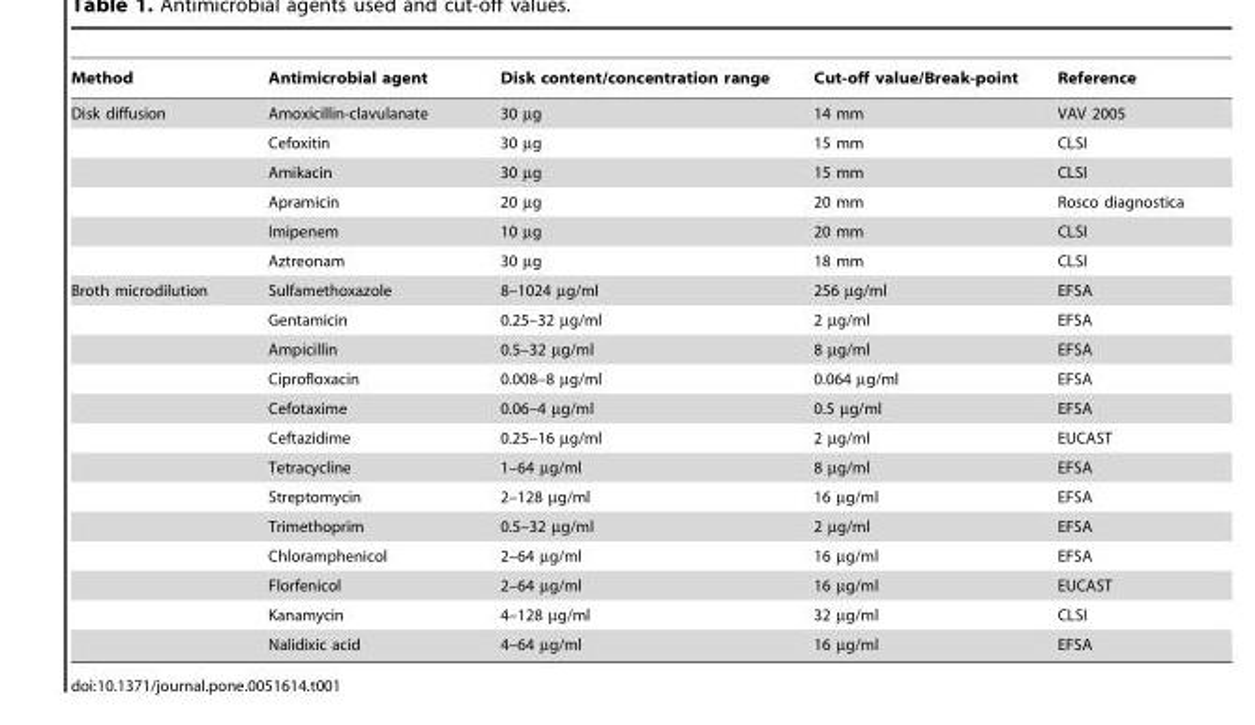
<table><thead><tr><td>Method</td><td>Antimicrobial agent</td><td>Disk content/concentration range</td><td>Cut-off value/Break-point</td><td>Reference</td></tr></thead><tbody><tr><td rowspan="6">Disk diffusion</td><td>Amoxicillin-clavulanate</td><td>30 µg</td><td>14 mm</td><td>VAV 2005</td></tr><tr><td>Cefoxitin</td><td>30 µg</td><td>15 mm</td><td>CLSI</td></tr><tr><td>Amikacin</td><td>30 µg</td><td>15 mm</td><td>CLSI</td></tr><tr><td>Apramicin</td><td>20 µg</td><td>20 mm</td><td>Rosco diagnostica</td></tr><tr><td>Imipenem</td><td>10 µg</td><td>20 mm</td><td>CLSI</td></tr><tr><td>Aztreonam</td><td>30 µg</td><td>18 mm</td><td>CLSI</td></tr><tr><td rowspan="13">Broth microdilution</td><td>Sulfamethoxazole</td><td>8–1024 µg/ml</td><td>256 µg/ml</td><td>EFSA</td></tr><tr><td>Gentamicin</td><td>0.25–32 µg/ml</td><td>2 µg/ml</td><td>EFSA</td></tr><tr><td>Ampicillin</td><td>0.5–32 µg/ml</td><td>8 µg/ml</td><td>EFSA</td></tr><tr><td>Ciprofloxacin</td><td>0.008–8 µg/ml</td><td>0.064 µg/ml</td><td>EFSA</td></tr><tr><td>Cefotaxime</td><td>0.06–4 µg/ml</td><td>0.5 µg/ml</td><td>EFSA</td></tr><tr><td>Ceftazidime</td><td>0.25–16 µg/ml</td><td>2 µg/ml</td><td>EUCAST</td></tr><tr><td>Tetracycline</td><td>1–64 µg/ml</td><td>8 µg/ml</td><td>EFSA</td></tr><tr><td>Streptomycin</td><td>2–128 µg/ml</td><td>16 µg/ml</td><td>EFSA</td></tr><tr><td>Trimethoprim</td><td>0.5–32 µg/ml</td><td>2 µg/ml</td><td>EFSA</td></tr><tr><td>Chloramphenicol</td><td>2–64 µg/ml</td><td>16 µg/ml</td><td>EFSA</td></tr><tr><td>Florfenicol</td><td>2–64 µg/ml</td><td>16 µg/ml</td><td>EUCAST</td></tr><tr><td>Kanamycin</td><td>4–128 µg/ml</td><td>32 µg/ml</td><td>CLSI</td></tr><tr><td>Nalidixic acid</td><td>4–64 µg/ml</td><td>16 µg/ml</td><td>EFSA</td></tr></tbody></table>